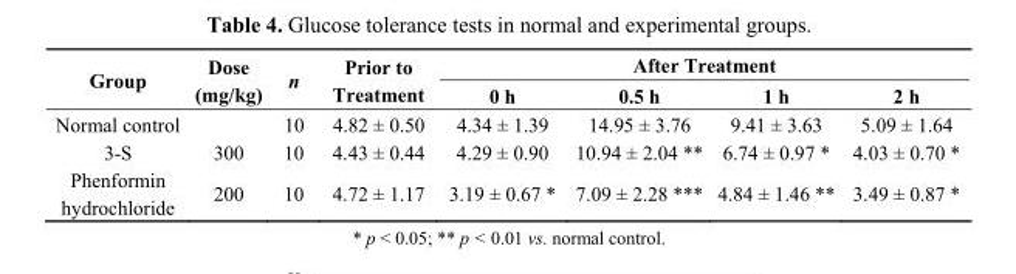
<table><thead><tr><td rowspan="2">Group</td><td rowspan="2">Dose (mg/kg)</td><td rowspan="2">n</td><td rowspan="2">Prior to Treatment</td><td colspan="4">After Treatment</td></tr><tr><td>0 h</td><td>0.5 h</td><td>1 h</td><td>2 h</td></tr></thead><tbody><tr><td>Normal control</td><td></td><td>10</td><td>4.82 ± 0.50</td><td>4.34 ± 1.39</td><td>14.95 ± 3.76</td><td>9.41 ± 3.63</td><td>5.09 ± 1.64</td></tr><tr><td>3-S</td><td>300</td><td>10</td><td>4.43 ± 0.44</td><td>4.29 ± 0.90</td><td>10.94 ± 2.04 **</td><td>6.74 ± 0.97 *</td><td>4.03 ± 0.70 *</td></tr><tr><td>Phenformin hydrochloride</td><td>200</td><td>10</td><td>4.72 ± 1.17</td><td>3.19 ± 0.67 *</td><td>7.09 ± 2.28 ***</td><td>4.84 ± 1.46 **</td><td>3.49 ± 0.87 *</td></tr></tbody></table>